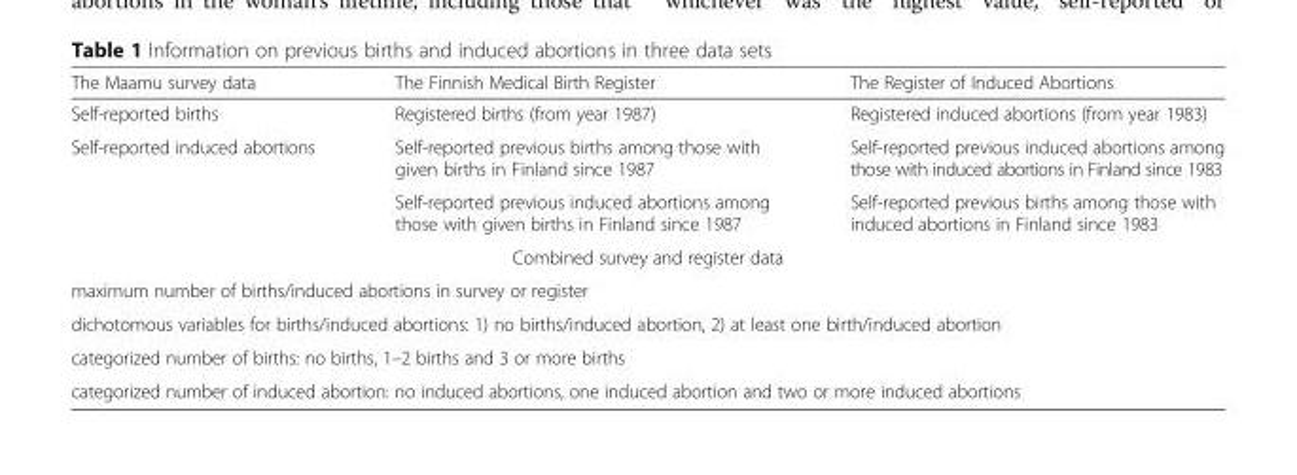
<table><thead><tr><td>The Maamu survey data</td><td>The Finnish Medical Birth Register</td><td>The Register of Induced Abortions</td></tr></thead><tbody><tr><td>Self-reported births</td><td>Registered births (from year 1987)</td><td>Registered induced abortions (from year 1983)</td></tr><tr><td rowspan="2">Self-reported induced abortions</td><td>Self-reported previous births among those with given births in Finland since 1987</td><td>Self-reported previous induced abortions among those with induced abortions in Finland since 1983</td></tr><tr><td>Self-reported previous induced abortions among those with given births in Finland since 1987</td><td>Self-reported previous births among those with induced abortions in Finland since 1983</td></tr><tr><td colspan="3">Combined survey and register data</td></tr><tr><td colspan="3">maximum number of births/induced abortions in survey or register</td></tr><tr><td colspan="3">dichotomous variables for births/induced abortions: 1) no births/induced abortion, 2) at least one birth/induced abortion</td></tr><tr><td colspan="3">categorized number of births: no births, 1–2 births and 3 or more births</td></tr><tr><td colspan="3">categorized number of induced abortion: no induced abortions, one induced abortion and two or more induced abortions</td></tr></tbody></table>